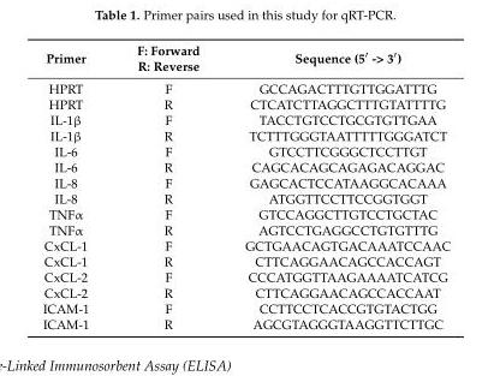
<table><thead><tr><td>Primer</td><td>F: Forward R: Reverse</td><td>Sequence (5′ -&gt; 3′)</td></tr></thead><tbody><tr><td>HPRT</td><td>F</td><td>GCCAGACTTTGTTGGATTTG</td></tr><tr><td>HPRT</td><td>R</td><td>CTCATCTTAGGCTTTGTATTTTG</td></tr><tr><td>IL-1β</td><td>F</td><td>TACCTGTCCTGCGTGTTGAA</td></tr><tr><td>IL-1β</td><td>R</td><td>TCTTTGGGTAATTTTTGGGATCT</td></tr><tr><td>IL-6</td><td>F</td><td>GTCCTTCGGGCTCCTTGT</td></tr><tr><td>IL-6</td><td>R</td><td>CAGCACAGCAGAGACAGGAC</td></tr><tr><td>IL-8</td><td>F</td><td>GAGCACTCCATAAGGCACAAA</td></tr><tr><td>IL-8</td><td>R</td><td>ATGGTTCCTTCCGGTGGT</td></tr><tr><td>TNFα</td><td>F</td><td>GTCCAGGCTTGTCCTGCTAC</td></tr><tr><td>TNFα</td><td>R</td><td>AGTCCTGAGGCCTGTGTTTG</td></tr><tr><td>CxCL-1</td><td>F</td><td>GCTGAACAGTGACAAATCCAAC</td></tr><tr><td>CxCL-1</td><td>R</td><td>CTTCAGGAACAGCCACCAGT</td></tr><tr><td>CxCL-2</td><td>F</td><td>CCCATGGTTAAGAAAATCATCG</td></tr><tr><td>CxCL-2</td><td>R</td><td>CTTCAGGAACAGCCACCAAT</td></tr><tr><td>ICAM-1</td><td>F</td><td>CCTTCCTCACCGTGTACTGG</td></tr><tr><td>ICAM-1</td><td>R</td><td>AGCGTAGGGTAAGGTTCTTGC</td></tr></tbody></table>